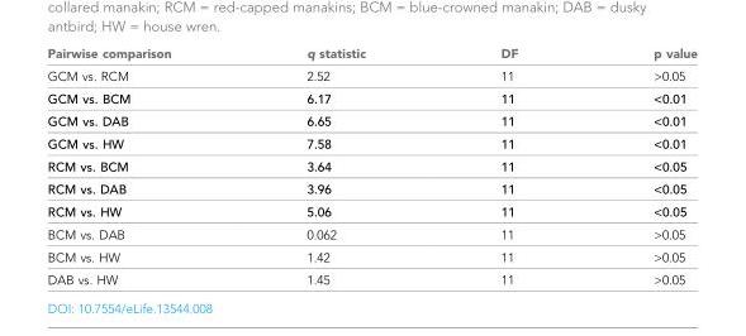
<table><thead><tr><td>Pairwise comparison</td><td>q statistic</td><td>DF</td><td>p value</td></tr></thead><tbody><tr><td>GCM vs. RCM</td><td>2.52</td><td>11</td><td>&gt;0.05</td></tr><tr><td>GCM vs. BCM</td><td>6.17</td><td>11</td><td>&lt;0.01</td></tr><tr><td>GCM vs. DAB</td><td>6.65</td><td>11</td><td>&lt;0.01</td></tr><tr><td>GCM vs. HW</td><td>7.58</td><td>11</td><td>&lt;0.01</td></tr><tr><td>RCM vs. BCM</td><td>3.64</td><td>11</td><td>&lt;0.05</td></tr><tr><td>RCM vs. DAB</td><td>3.96</td><td>11</td><td>&lt;0.05</td></tr><tr><td>RCM vs. HW</td><td>5.06</td><td>11</td><td>&lt;0.05</td></tr><tr><td>BCM vs. DAB</td><td>0.062</td><td>11</td><td>&gt;0.05</td></tr><tr><td>BCM vs. HW</td><td>1.42</td><td>11</td><td>&gt;0.05</td></tr><tr><td>DAB vs. HW</td><td>1.45</td><td>11</td><td>&gt;0.05</td></tr></tbody></table>